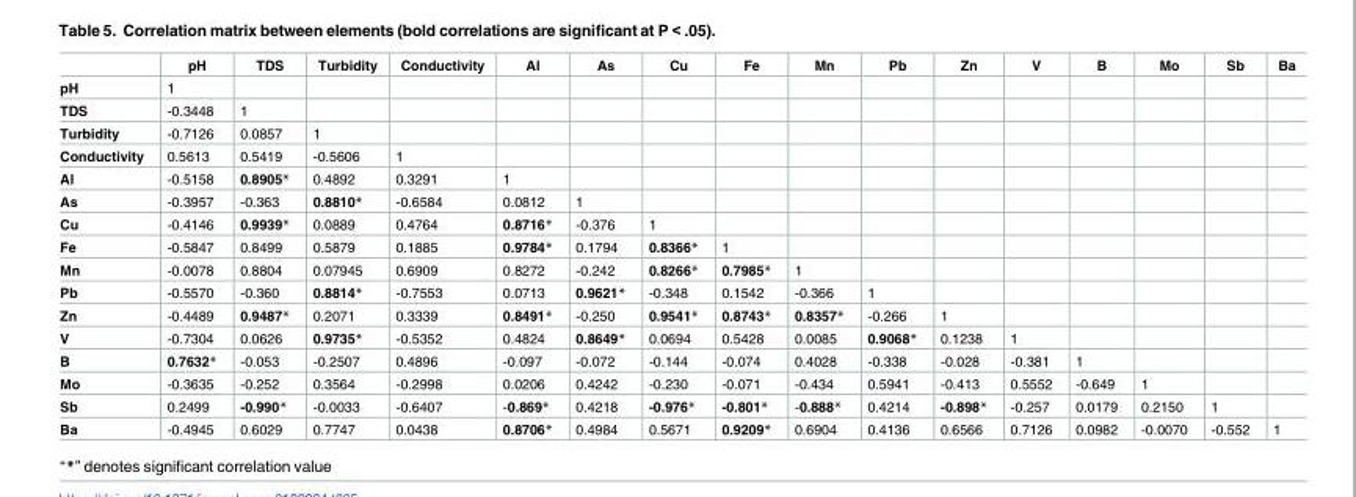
<table><thead><tr><td></td><td>pH</td><td>TDS</td><td>Turbidity</td><td>Conductivity</td><td>Al</td><td>As</td><td>Cu</td><td>Fe</td><td>Mn</td><td>Pb</td><td>Zn</td><td>V</td><td>B</td><td>Mo</td><td>Sb</td><td>Ba</td></tr></thead><tbody><tr><td>pH</td><td>1</td><td></td><td></td><td></td><td></td><td></td><td></td><td></td><td></td><td></td><td></td><td></td><td></td><td></td><td></td><td></td></tr><tr><td>TDS</td><td>-0.3448</td><td>1</td><td></td><td></td><td></td><td></td><td></td><td></td><td></td><td></td><td></td><td></td><td></td><td></td><td></td><td></td></tr><tr><td>Turbidity</td><td>-0.7126</td><td>0.0857</td><td>1</td><td></td><td></td><td></td><td></td><td></td><td></td><td></td><td></td><td></td><td></td><td></td><td></td><td></td></tr><tr><td>Conductivity</td><td>0.5613</td><td>0.5419</td><td>-0.5606</td><td>1</td><td></td><td></td><td></td><td></td><td></td><td></td><td></td><td></td><td></td><td></td><td></td><td></td></tr><tr><td>Al</td><td>-0.5158</td><td>0.8905*</td><td>0.4892</td><td>0.3291</td><td>1</td><td></td><td></td><td></td><td></td><td></td><td></td><td></td><td></td><td></td><td></td><td></td></tr><tr><td>As</td><td>-0.3957</td><td>-0.363</td><td>0.8810*</td><td>-0.6584</td><td>0.0812</td><td>1</td><td></td><td></td><td></td><td></td><td></td><td></td><td></td><td></td><td></td><td></td></tr><tr><td>Cu</td><td>-0.4146</td><td>0.9939*</td><td>0.0889</td><td>0.4764</td><td>0.8716*</td><td>-0.376</td><td>1</td><td></td><td></td><td></td><td></td><td></td><td></td><td></td><td></td><td></td></tr><tr><td>Fe</td><td>-0.5847</td><td>0.8499</td><td>0.5879</td><td>0.1885</td><td>0.9784*</td><td>0.1794</td><td>0.8366*</td><td>1</td><td></td><td></td><td></td><td></td><td></td><td></td><td></td><td></td></tr><tr><td>Mn</td><td>-0.0078</td><td>0.8804</td><td>0.07945</td><td>0.6909</td><td>0.8272</td><td>-0.242</td><td>0.8266*</td><td>0.7985*</td><td>1</td><td></td><td></td><td></td><td></td><td></td><td></td><td></td></tr><tr><td>Pb</td><td>-0.5570</td><td>-0.360</td><td>0.8814*</td><td>-0.7553</td><td>0.0713</td><td>0.9621*</td><td>-0.348</td><td>0.1542</td><td>-0.366</td><td>1</td><td></td><td></td><td></td><td></td><td></td><td></td></tr><tr><td>Zn</td><td>-0.4489</td><td>0.9487*</td><td>0.2071</td><td>0.3339</td><td>0.8491*</td><td>-0.250</td><td>0.9541*</td><td>0.8743*</td><td>0.8357*</td><td>-0.266</td><td>1</td><td></td><td></td><td></td><td></td><td></td></tr><tr><td>V</td><td>-0.7304</td><td>0.0626</td><td>0.9735*</td><td>-0.5352</td><td>0.4824</td><td>0.8649*</td><td>0.0694</td><td>0.5428</td><td>0.0085</td><td>0.9068*</td><td>0.1238</td><td>1</td><td></td><td></td><td></td><td></td></tr><tr><td>B</td><td>0.7632*</td><td>-0.053</td><td>-0.2507</td><td>0.4896</td><td>-0.097</td><td>-0.072</td><td>-0.144</td><td>-0.074</td><td>0.4028</td><td>-0.338</td><td>-0.028</td><td>-0.381</td><td>1</td><td></td><td></td><td></td></tr><tr><td>Mo</td><td>-0.3635</td><td>-0.252</td><td>0.3564</td><td>-0.2998</td><td>0.0206</td><td>0.4242</td><td>-0.230</td><td>-0.071</td><td>-0.434</td><td>0.5941</td><td>-0.413</td><td>0.5552</td><td>-0.649</td><td>1</td><td></td><td></td></tr><tr><td>Sb</td><td>0.2499</td><td>-0.990*</td><td>-0.0033</td><td>-0.6407</td><td>-0.869*</td><td>0.4218</td><td>-0.976*</td><td>-0.801*</td><td>-0.888*</td><td>0.4214</td><td>-0.898*</td><td>-0.257</td><td>0.0179</td><td>0.2150</td><td>1</td><td></td></tr><tr><td>Ba</td><td>-0.4945</td><td>0.6029</td><td>0.7747</td><td>0.0438</td><td>0.8706*</td><td>0.4984</td><td>0.5671</td><td>0.9209*</td><td>0.6904</td><td>0.4136</td><td>0.6566</td><td>0.7126</td><td>0.0982</td><td>-0.0070</td><td>-0.552</td><td>1</td></tr></tbody></table>